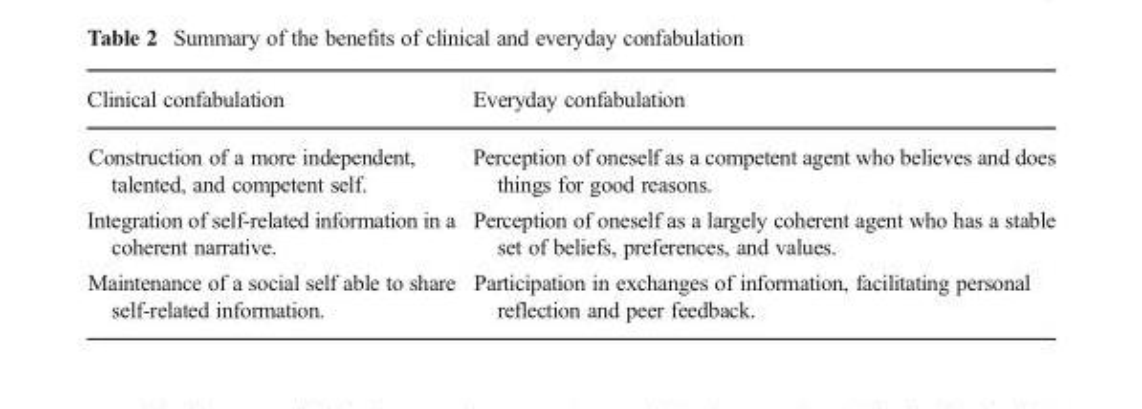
<table><thead><tr><td>Clinical confabulation</td><td>Everyday confabulation</td></tr></thead><tbody><tr><td>Construction of a more independent, talented, and competent self.</td><td>Perception of oneself as a competent agent who believes and does things for good reasons.</td></tr><tr><td>Integration of self-related information in a coherent narrative.</td><td>Perception of oneself as a largely coherent agent who has a stable set of beliefs, preferences, and values.</td></tr><tr><td>Maintenance of a social self able to share self-related information.</td><td>Participation in exchanges of information, facilitating personal reflection and peer feedback.</td></tr></tbody></table>